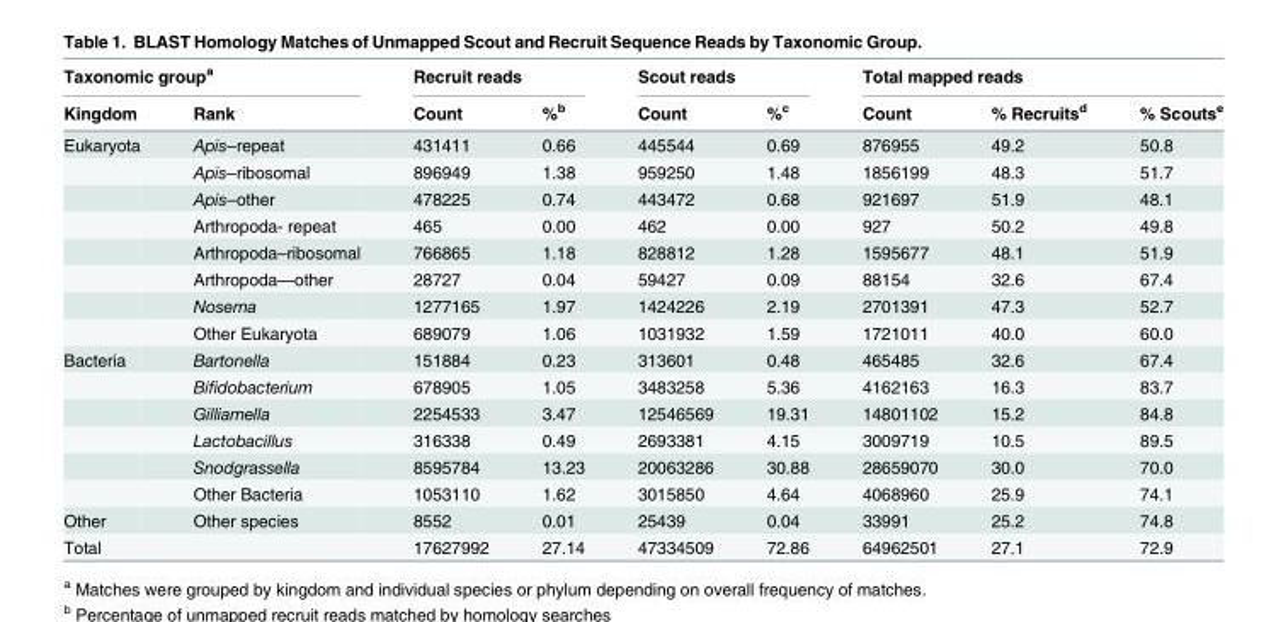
<table><thead><tr><td colspan="2">Taxonomic group<sup>a</sup></td><td colspan="2">Recruit reads</td><td colspan="2">Scout reads</td><td colspan="3">Total mapped reads</td></tr><tr><td>Kingdom</td><td>Rank</td><td>Count</td><td>%<sup>b</sup></td><td>Count</td><td>%<sup>c</sup></td><td>Count</td><td>% Recruits<sup>d</sup></td><td>% Scouts<sup>e</sup></td></tr></thead><tbody><tr><td rowspan="8">Eukaryota</td><td>Apis–repeat</td><td>431411</td><td>0.66</td><td>445544</td><td>0.69</td><td>876955</td><td>49.2</td><td>50.8</td></tr><tr><td>Apis–ribosomal</td><td>896949</td><td>1.38</td><td>959250</td><td>1.48</td><td>1856199</td><td>48.3</td><td>51.7</td></tr><tr><td>Apis–other</td><td>478225</td><td>0.74</td><td>443472</td><td>0.68</td><td>921697</td><td>51.9</td><td>48.1</td></tr><tr><td>Arthropoda- repeat</td><td>465</td><td>0.00</td><td>462</td><td>0.00</td><td>927</td><td>50.2</td><td>49.8</td></tr><tr><td>Arthropoda–ribosomal</td><td>766865</td><td>1.18</td><td>828812</td><td>1.28</td><td>1595677</td><td>48.1</td><td>51.9</td></tr><tr><td>Arthropoda—other</td><td>28727</td><td>0.04</td><td>59427</td><td>0.09</td><td>88154</td><td>32.6</td><td>67.4</td></tr><tr><td>Nosema</td><td>1277165</td><td>1.97</td><td>1424226</td><td>2.19</td><td>2701391</td><td>47.3</td><td>52.7</td></tr><tr><td>Other Eukaryota</td><td>689079</td><td>1.06</td><td>1031932</td><td>1.59</td><td>1721011</td><td>40.0</td><td>60.0</td></tr><tr><td rowspan="6">Bacteria</td><td>Bartonella</td><td>151884</td><td>0.23</td><td>313601</td><td>0.48</td><td>465485</td><td>32.6</td><td>67.4</td></tr><tr><td>Bifidobacterium</td><td>678905</td><td>1.05</td><td>3483258</td><td>5.36</td><td>4162163</td><td>16.3</td><td>83.7</td></tr><tr><td>Gilliamella</td><td>2254533</td><td>3.47</td><td>12546569</td><td>19.31</td><td>14801102</td><td>15.2</td><td>84.8</td></tr><tr><td>Lactobacillus</td><td>316338</td><td>0.49</td><td>2693381</td><td>4.15</td><td>3009719</td><td>10.5</td><td>89.5</td></tr><tr><td>Snodgrassella</td><td>8595784</td><td>13.23</td><td>20063286</td><td>30.88</td><td>28659070</td><td>30.0</td><td>70.0</td></tr><tr><td>Other Bacteria</td><td>1053110</td><td>1.62</td><td>3015850</td><td>4.64</td><td>4068960</td><td>25.9</td><td>74.1</td></tr><tr><td>Other</td><td>Other species</td><td>8552</td><td>0.01</td><td>25439</td><td>0.04</td><td>33991</td><td>25.2</td><td>74.8</td></tr><tr><td>Total</td><td></td><td>17627992</td><td>27.14</td><td>47334509</td><td>72.86</td><td>64962501</td><td>27.1</td><td>72.9</td></tr></tbody></table>